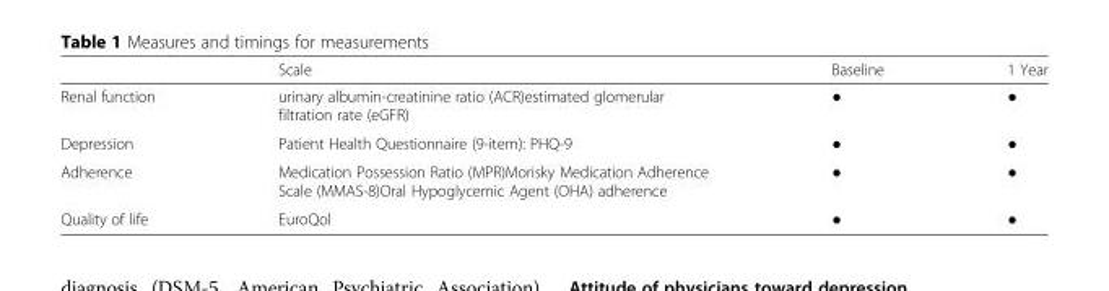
<table><thead><tr><td></td><td>Scale</td><td>Baseline</td><td>1 Year</td></tr></thead><tbody><tr><td>Renal function</td><td>urinary albumin-creatinine ratio (ACR)estimated glomerular filtration rate (eGFR)</td><td>●</td><td>●</td></tr><tr><td>Depression</td><td>Patient Health Questionnaire (9-item): PHQ-9</td><td>●</td><td>●</td></tr><tr><td>Adherence</td><td>Medication Possession Ratio (MPR)Morisky Medication Adherence Scale (MMAS-8)Oral Hypoglycemic Agent (OHA) adherence</td><td>●</td><td>●</td></tr><tr><td>Quality of life</td><td>EuroQol</td><td>●</td><td>●</td></tr></tbody></table>